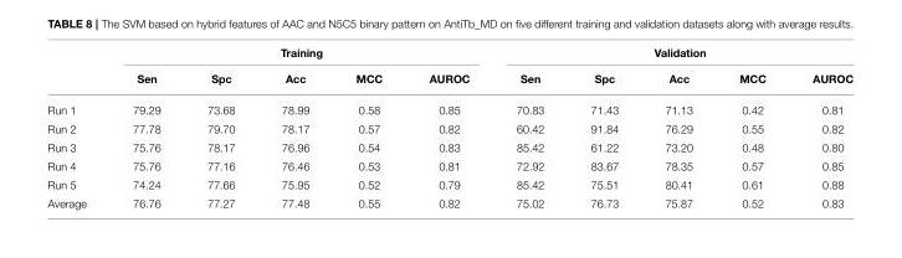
<table><thead><tr><td rowspan="2"></td><td colspan="5">Training</td><td colspan="5">Validation</td></tr><tr><td>Sen</td><td>Spc</td><td>Acc</td><td>MCC</td><td>AUROC</td><td>Sen</td><td>Spc</td><td>Acc</td><td>MCC</td><td>AUROC</td></tr></thead><tbody><tr><td>Run 1</td><td>79.29</td><td>73.68</td><td>78.99</td><td>0.58</td><td>0.85</td><td>70.83</td><td>71.43</td><td>71.13</td><td>0.42</td><td>0.81</td></tr><tr><td>Run 2</td><td>77.78</td><td>79.70</td><td>78.17</td><td>0.57</td><td>0.82</td><td>60.42</td><td>91.84</td><td>76.29</td><td>0.55</td><td>0.82</td></tr><tr><td>Run 3</td><td>75.76</td><td>78.17</td><td>76.96</td><td>0.54</td><td>0.83</td><td>85.42</td><td>61.22</td><td>73.20</td><td>0.48</td><td>0.80</td></tr><tr><td>Run 4</td><td>75.76</td><td>77.16</td><td>76.46</td><td>0.53</td><td>0.81</td><td>72.92</td><td>83.67</td><td>78.35</td><td>0.57</td><td>0.85</td></tr><tr><td>Run 5</td><td>74.24</td><td>77.66</td><td>75.95</td><td>0.52</td><td>0.79</td><td>85.42</td><td>75.51</td><td>80.41</td><td>0.61</td><td>0.88</td></tr><tr><td>Average</td><td>76.76</td><td>77.27</td><td>77.48</td><td>0.55</td><td>0.82</td><td>75.02</td><td>76.73</td><td>75.87</td><td>0.52</td><td>0.83</td></tr></tbody></table>